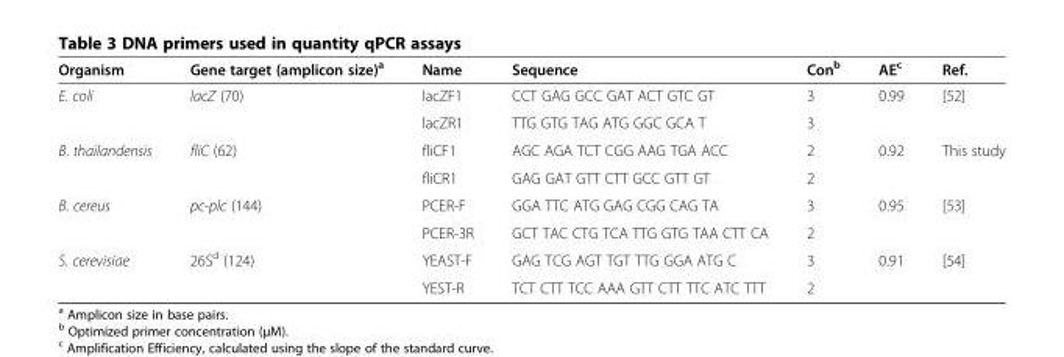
<table><thead><tr><td>Organism</td><td>Gene target (amplicon size)<sup>a</sup></td><td>Name</td><td>Sequence</td><td>Con<sup>b</sup></td><td>AE<sup>c</sup></td><td>Ref.</td></tr></thead><tbody><tr><td rowspan="2">E. coli</td><td>lacZ (70)</td><td>lacZF1</td><td>CCT GAG GCC GAT ACT GTC GT</td><td>3</td><td>0.99</td><td>[52]</td></tr><tr><td></td><td>lacZR1</td><td>TTG GTG TAG ATG GGC GCA T</td><td>3</td><td></td><td></td></tr><tr><td rowspan="2">B. thailandensis</td><td>fliC (62)</td><td>fliCF1</td><td>AGC AGA TCT CGG AAG TGA ACC</td><td>2</td><td>0.92</td><td>This study</td></tr><tr><td></td><td>fliCR1</td><td>GAG GAT GTT CTT GCC GTT GT</td><td>2</td><td></td><td></td></tr><tr><td rowspan="2">B. cereus</td><td>pc-plc (144)</td><td>PCER-F</td><td>GGA TTC ATG GAG CGG CAG TA</td><td>3</td><td>0.95</td><td>[53]</td></tr><tr><td></td><td>PCER-3R</td><td>GCT TAC CTG TCA TTG GTG TAA CTT CA</td><td>2</td><td></td><td></td></tr><tr><td rowspan="2">S. cerevisiae</td><td>26S<sup>d</sup> (124)</td><td>YEAST-F</td><td>GAG TCG AGT TGT TTG GGA ATG C</td><td>3</td><td>0.91</td><td>[54]</td></tr><tr><td></td><td>YEST-R</td><td>TCT CTT TCC AAA GTT CTT TTC ATC TTT</td><td>2</td><td></td><td></td></tr></tbody></table>